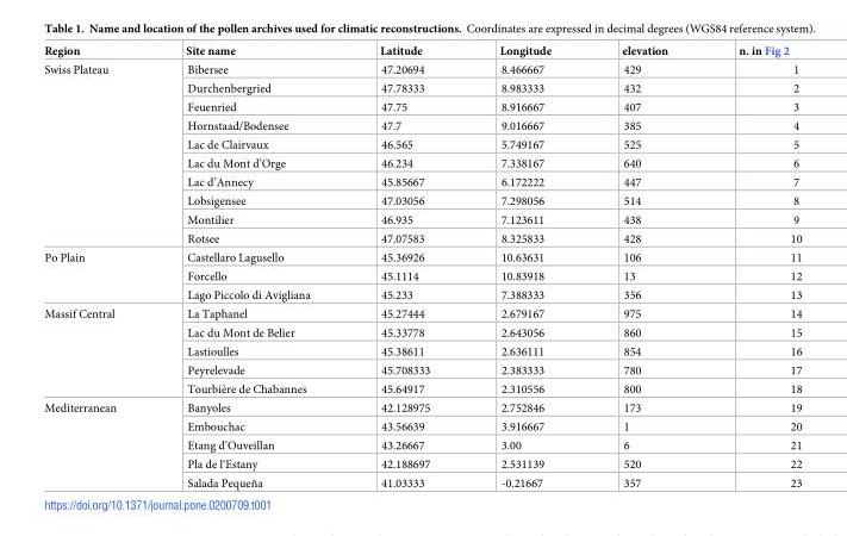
<table><thead><tr><td>Region</td><td>Site name</td><td>Latitude</td><td>Longitude</td><td>elevation</td><td>n. in Fig 2</td></tr></thead><tbody><tr><td rowspan="10">Swiss Plateau</td><td>Bibersee</td><td>47.20694</td><td>8.466667</td><td>429</td><td>1</td></tr><tr><td>Durchenbergried</td><td>47.78333</td><td>8.983333</td><td>432</td><td>2</td></tr><tr><td>Feuenried</td><td>47.75</td><td>8.916667</td><td>407</td><td>3</td></tr><tr><td>Hornstaad/Bodensee</td><td>47.7</td><td>9.016667</td><td>385</td><td>4</td></tr><tr><td>Lac de Clairvaux</td><td>46.565</td><td>5.749167</td><td>525</td><td>5</td></tr><tr><td>Lac du Mont d’Orge</td><td>46.234</td><td>7.338167</td><td>640</td><td>6</td></tr><tr><td>Lac d’Annecy</td><td>45.85667</td><td>6.172222</td><td>447</td><td>7</td></tr><tr><td>Lobsigensee</td><td>47.03056</td><td>7.298056</td><td>514</td><td>8</td></tr><tr><td>Montilier</td><td>46.935</td><td>7.123611</td><td>438</td><td>9</td></tr><tr><td>Rotsee</td><td>47.07583</td><td>8.325833</td><td>428</td><td>10</td></tr><tr><td rowspan="3">Po Plain</td><td>Castellaro Lagusello</td><td>45.36926</td><td>10.63631</td><td>106</td><td>11</td></tr><tr><td>Forcello</td><td>45.1114</td><td>10.83918</td><td>13</td><td>12</td></tr><tr><td>Lago Piccolo di Avigliana</td><td>45.233</td><td>7.388333</td><td>356</td><td>13</td></tr><tr><td rowspan="5">Massif Central</td><td>La Taphanel</td><td>45.27444</td><td>2.679167</td><td>975</td><td>14</td></tr><tr><td>Lac du Mont de Belier</td><td>45.33778</td><td>2.643056</td><td>860</td><td>15</td></tr><tr><td>Lastioulles</td><td>45.38611</td><td>2.636111</td><td>854</td><td>16</td></tr><tr><td>Peyrelevade</td><td>45.708333</td><td>2.383333</td><td>780</td><td>17</td></tr><tr><td>Tourbière de Chabannes</td><td>45.64917</td><td>2.310556</td><td>800</td><td>18</td></tr><tr><td rowspan="5">Mediterranean</td><td>Banyoles</td><td>42.128975</td><td>2.752846</td><td>173</td><td>19</td></tr><tr><td>Embouchac</td><td>43.56639</td><td>3.916667</td><td>1</td><td>20</td></tr><tr><td>Etang d’Ouveillan</td><td>43.26667</td><td>3.00</td><td>6</td><td>21</td></tr><tr><td>Pla de l‘Estany</td><td>42.188697</td><td>2.531139</td><td>520</td><td>22</td></tr><tr><td>Salada Pequeña</td><td>41.03333</td><td>-0.21667</td><td>357</td><td>23</td></tr></tbody></table>